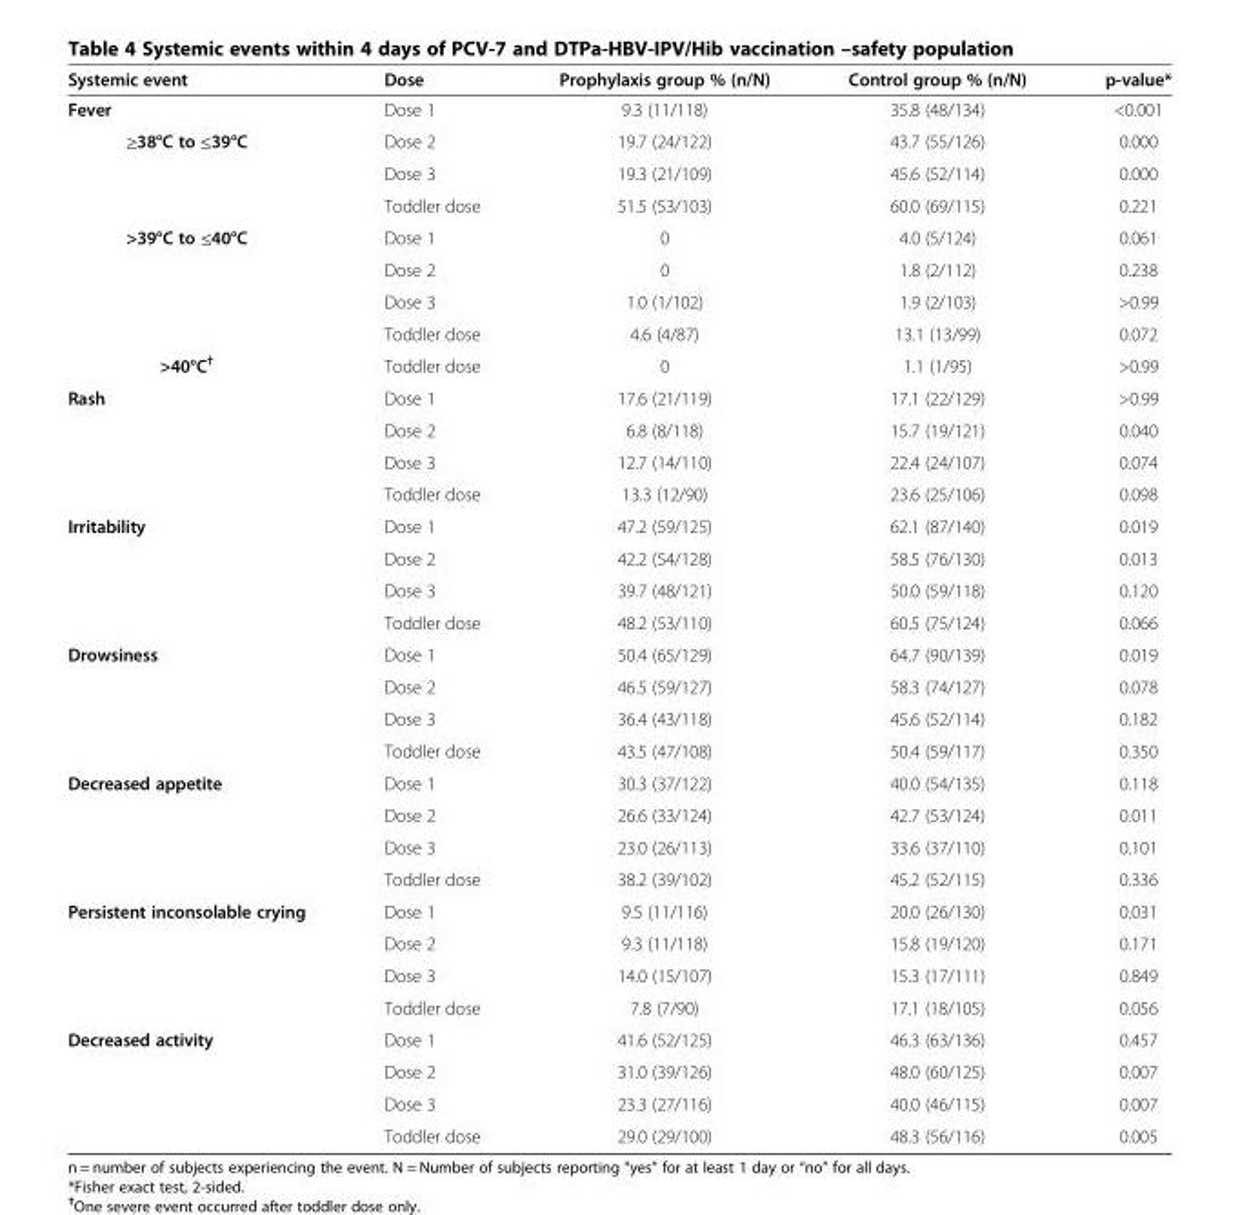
<table><thead><tr><td>Systemic event</td><td>Dose</td><td>Prophylaxis group % (n/N)</td><td>Control group % (n/N)</td><td>p-value*</td></tr></thead><tbody><tr><td>Fever</td><td>Dose 1</td><td>9.3 (11/118)</td><td>35.8 (48/134)</td><td>&lt;0.001</td></tr><tr><td rowspan="3">≥38°C to ≤39°C</td><td>Dose 2</td><td>19.7 (24/122)</td><td>43.7 (55/126)</td><td>0.000</td></tr><tr><td>Dose 3</td><td>19.3 (21/109)</td><td>45.6 (52/114)</td><td>0.000</td></tr><tr><td>Toddler dose</td><td>51.5 (53/103)</td><td>60.0 (69/115)</td><td>0.221</td></tr><tr><td rowspan="4">&gt;39°C to ≤40°C</td><td>Dose 1</td><td>0</td><td>4.0 (5/124)</td><td>0.061</td></tr><tr><td>Dose 2</td><td>0</td><td>1.8 (2/112)</td><td>0.238</td></tr><tr><td>Dose 3</td><td>1.0 (1/102)</td><td>1.9 (2/103)</td><td>&gt;0.99</td></tr><tr><td>Toddler dose</td><td>4.6 (4/87)</td><td>13.1 (13/99)</td><td>0.072</td></tr><tr><td>&gt;40°C<sup>†</sup></td><td>Toddler dose</td><td>0</td><td>1.1 (1/95)</td><td>&gt;0.99</td></tr><tr><td rowspan="4">Rash</td><td>Dose 1</td><td>17.6 (21/119)</td><td>17.1 (22/129)</td><td>&gt;0.99</td></tr><tr><td>Dose 2</td><td>6.8 (8/118)</td><td>15.7 (19/121)</td><td>0.040</td></tr><tr><td>Dose 3</td><td>12.7 (14/110)</td><td>22.4 (24/107)</td><td>0.074</td></tr><tr><td>Toddler dose</td><td>13.3 (12/90)</td><td>23.6 (25/106)</td><td>0.098</td></tr><tr><td rowspan="4">Irritability</td><td>Dose 1</td><td>47.2 (59/125)</td><td>62.1 (87/140)</td><td>0.019</td></tr><tr><td>Dose 2</td><td>42.2 (54/128)</td><td>58.5 (76/130)</td><td>0.013</td></tr><tr><td>Dose 3</td><td>39.7 (48/121)</td><td>50.0 (59/118)</td><td>0.120</td></tr><tr><td>Toddler dose</td><td>48.2 (53/110)</td><td>60.5 (75/124)</td><td>0.066</td></tr><tr><td rowspan="4">Drowsiness</td><td>Dose 1</td><td>50.4 (65/129)</td><td>64.7 (90/139)</td><td>0.019</td></tr><tr><td>Dose 2</td><td>46.5 (59/127)</td><td>58.3 (74/127)</td><td>0.078</td></tr><tr><td>Dose 3</td><td>36.4 (43/118)</td><td>45.6 (52/114)</td><td>0.182</td></tr><tr><td>Toddler dose</td><td>43.5 (47/108)</td><td>50.4 (59/117)</td><td>0.350</td></tr><tr><td rowspan="4">Decreased appetite</td><td>Dose 1</td><td>30.3 (37/122)</td><td>40.0 (54/135)</td><td>0.118</td></tr><tr><td>Dose 2</td><td>26.6 (33/124)</td><td>42.7 (53/124)</td><td>0.011</td></tr><tr><td>Dose 3</td><td>23.0 (26/113)</td><td>33.6 (37/110)</td><td>0.101</td></tr><tr><td>Toddler dose</td><td>38.2 (39/102)</td><td>45.2 (52/115)</td><td>0.336</td></tr><tr><td rowspan="4">Persistent inconsolable crying</td><td>Dose 1</td><td>9.5 (11/116)</td><td>20.0 (26/130)</td><td>0.031</td></tr><tr><td>Dose 2</td><td>9.3 (11/118)</td><td>15.8 (19/120)</td><td>0.171</td></tr><tr><td>Dose 3</td><td>14.0 (15/107)</td><td>15.3 (17/111)</td><td>0.849</td></tr><tr><td>Toddler dose</td><td>7.8 (7/90)</td><td>17.1 (18/105)</td><td>0.056</td></tr><tr><td rowspan="4">Decreased activity</td><td>Dose 1</td><td>41.6 (52/125)</td><td>46.3 (63/136)</td><td>0.457</td></tr><tr><td>Dose 2</td><td>31.0 (39/126)</td><td>48.0 (60/125)</td><td>0.007</td></tr><tr><td>Dose 3</td><td>23.3 (27/116)</td><td>40.0 (46/115)</td><td>0.007</td></tr><tr><td>Toddler dose</td><td>29.0 (29/100)</td><td>48.3 (56/116)</td><td>0.005</td></tr></tbody></table>